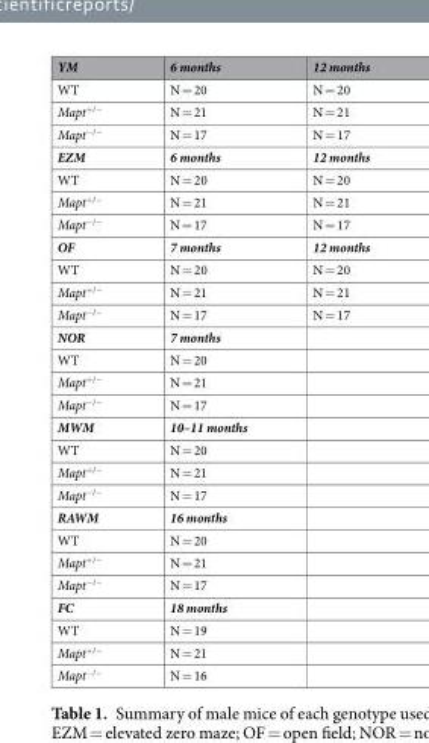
<table><thead><tr><td>YM</td><td>6 months</td><td>12 months</td></tr></thead><tbody><tr><td>WT</td><td>N = 20</td><td>N = 20</td></tr><tr><td>Mapt<sup>+/−</sup></td><td>N = 21</td><td>N = 21</td></tr><tr><td>Mapt<sup>−/−</sup></td><td>N = 17</td><td>N = 17</td></tr><tr><td>EZM</td><td>6 months</td><td>12 months</td></tr><tr><td>WT</td><td>N = 20</td><td>N = 20</td></tr><tr><td>Mapt<sup>+/−</sup></td><td>N = 21</td><td>N = 21</td></tr><tr><td>Mapt<sup>−/−</sup></td><td>N = 17</td><td>N = 17</td></tr><tr><td>OF</td><td>7 months</td><td>12 months</td></tr><tr><td>WT</td><td>N = 20</td><td>N = 20</td></tr><tr><td>Mapt<sup>+/−</sup></td><td>N = 21</td><td>N = 21</td></tr><tr><td>Mapt<sup>−/−</sup></td><td>N = 17</td><td>N = 17</td></tr><tr><td>NOR</td><td>7 months</td><td></td></tr><tr><td>WT</td><td>N = 20</td><td></td></tr><tr><td>Mapt<sup>+/−</sup></td><td>N = 21</td><td></td></tr><tr><td>Mapt<sup>−/−</sup></td><td>N = 17</td><td></td></tr><tr><td>MWM</td><td>10–11 months</td><td></td></tr><tr><td>WT</td><td>N = 20</td><td></td></tr><tr><td>Mapt<sup>+/−</sup></td><td>N = 21</td><td></td></tr><tr><td>Mapt<sup>−/−</sup></td><td>N = 17</td><td></td></tr><tr><td>RAWM</td><td>16 months</td><td></td></tr><tr><td>WT</td><td>N = 20</td><td></td></tr><tr><td>Mapt<sup>+/−</sup></td><td>N = 21</td><td></td></tr><tr><td>Mapt<sup>−/−</sup></td><td>N = 17</td><td></td></tr><tr><td>FC</td><td>18 months</td><td></td></tr><tr><td>WT</td><td>N = 19</td><td></td></tr><tr><td>Mapt<sup>+/−</sup></td><td>N = 21</td><td></td></tr><tr><td>Mapt<sup>−/−</sup></td><td>N = 16</td><td></td></tr></tbody></table>